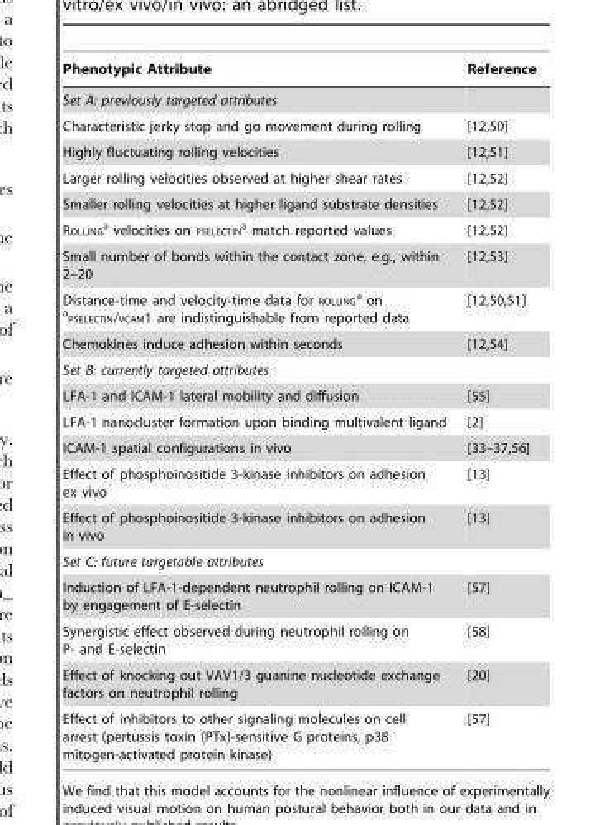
<table><thead><tr><td>Phenotypic Attribute</td><td>Reference</td></tr></thead><tbody><tr><td colspan="2">Set A: previously targeted attributes</td></tr><tr><td>Characteristic jerky stop and go movement during rolling</td><td>[12,50]</td></tr><tr><td>Highly fluctuating rolling velocities</td><td>[12,51]</td></tr><tr><td>Larger rolling velocities observed at higher shear rates</td><td>[12,52]</td></tr><tr><td>Smaller rolling velocities at higher ligand substrate densities</td><td>[12,52]</td></tr><tr><td>ROLLINGa velocities on PSELECTINa match reported values</td><td>[12,52]</td></tr><tr><td>Small number of bonds within the contact zone, e.g., within 2–20</td><td>[12,53]</td></tr><tr><td>Distance-time and velocity-time data for ROLLINGa on aPSELECTIN/VCAM1 are indistinguishable from reported data</td><td>[12,50,51]</td></tr><tr><td>Chemokines induce adhesion within seconds</td><td>[12,54]</td></tr><tr><td colspan="2">Set B: currently targeted attributes</td></tr><tr><td>LFA-1 and ICAM-1 lateral mobility and diffusion</td><td>[55]</td></tr><tr><td>LFA-1 nanocluster formation upon binding multivalent ligand</td><td>[2]</td></tr><tr><td>ICAM-1 spatial configurations in vivo</td><td>[33–37,56]</td></tr><tr><td>Effect of phosphoinositide 3-kinase inhibitors on adhesion ex vivo</td><td>[13]</td></tr><tr><td>Effect of phosphoinositide 3-kinase inhibitors on adhesion in vivo</td><td>[13]</td></tr><tr><td colspan="2">Set C: future targetable attributes</td></tr><tr><td>Induction of LFA-1-dependent neutrophil rolling on ICAM-1 by engagement of E-selectin</td><td>[57]</td></tr><tr><td>Synergistic effect observed during neutrophil rolling on P- and E-selectin</td><td>[58]</td></tr><tr><td>Effect of knocking out VAV1/3 guanine nucleotide exchange factors on neutrophil rolling</td><td>[20]</td></tr><tr><td>Effect of inhibitors to other signaling molecules on cell arrest (pertussis toxin (PTx)-sensitive G proteins, p38 mitogen-activated protein kinase)</td><td>[57]</td></tr></tbody></table>